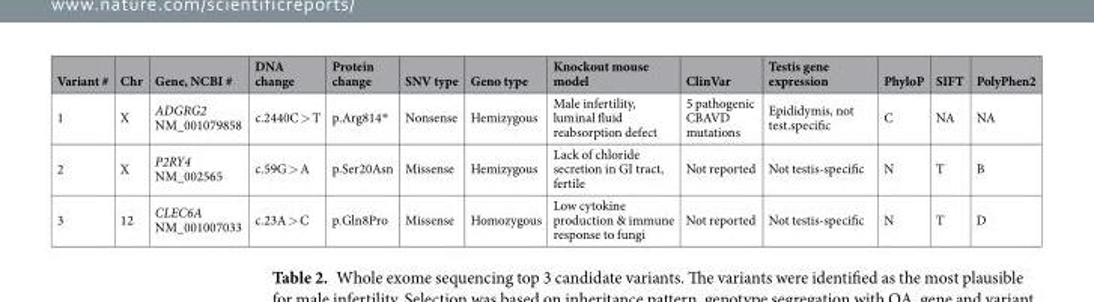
<table><thead><tr><td>Variant #</td><td>Chr</td><td>Gene, NCBI #</td><td>DNA change</td><td>Protein change</td><td>SNV type</td><td>Geno type</td><td>Knockout mouse model</td><td>ClinVar</td><td>Testis gene expression</td><td>PhyloP</td><td>SIFT</td><td>PolyPhen2</td></tr></thead><tbody><tr><td>1</td><td>X</td><td>ADGRG2 NM_001079858</td><td>c.2440C &gt; T</td><td>p.Arg814*</td><td>Nonsense</td><td>Hemizygous</td><td>Male infertility, luminal fluid reabsorption defect</td><td>5 pathogenic CBAVD mutations</td><td>Epididymis, not test.specific</td><td>C</td><td>NA</td><td>NA</td></tr><tr><td>2</td><td>X</td><td>P2RY4 NM_002565</td><td>c.59G &gt; A</td><td>p.Ser20Asn</td><td>Missense</td><td>Hemizygous</td><td>Lack of chloride secretion in GI tract, fertile</td><td>Not reported</td><td>Not testis-specific</td><td>N</td><td>T</td><td>B</td></tr><tr><td>3</td><td>12</td><td>CLEC6A NM_001007033</td><td>c.23A &gt; C</td><td>p.Gln8Pro</td><td>Missense</td><td>Homozygous</td><td>Low cytokine production &amp; immune response to fungi</td><td>Not reported</td><td>Not testis-specific</td><td>N</td><td>T</td><td>D</td></tr></tbody></table>